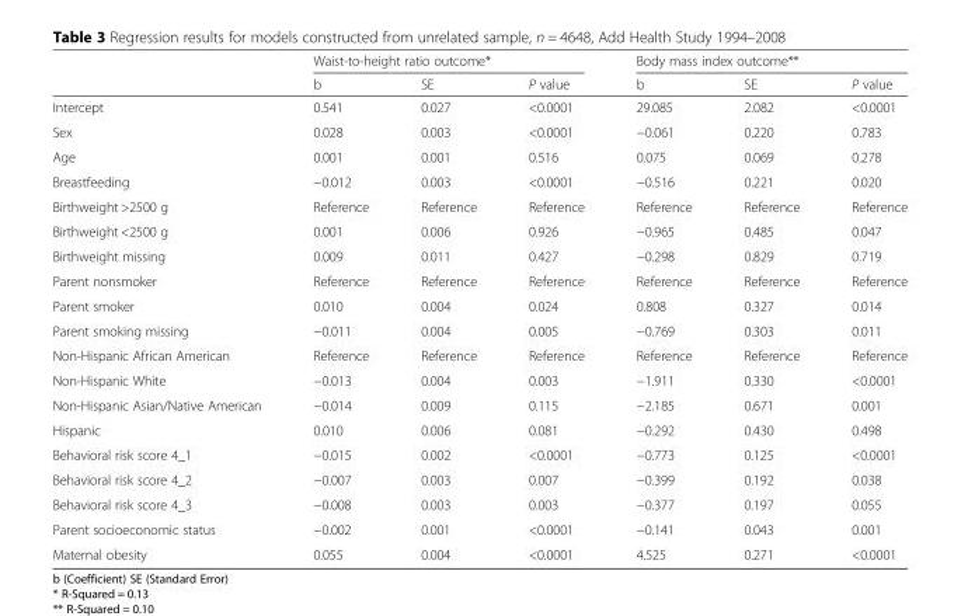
<table><thead><tr><td rowspan="2"></td><td colspan="3">Waist-to-height ratio outcome*</td><td colspan="3">Body mass index outcome**</td></tr><tr><td>b</td><td>SE</td><td>P value</td><td>b</td><td>SE</td><td>P value</td></tr></thead><tbody><tr><td>Intercept</td><td>0.541</td><td>0.027</td><td>&lt;0.0001</td><td>29.085</td><td>2.082</td><td>&lt;0.0001</td></tr><tr><td>Sex</td><td>0.028</td><td>0.003</td><td>&lt;0.0001</td><td>−0.061</td><td>0.220</td><td>0.783</td></tr><tr><td>Age</td><td>0.001</td><td>0.001</td><td>0.516</td><td>0.075</td><td>0.069</td><td>0.278</td></tr><tr><td>Breastfeeding</td><td>−0.012</td><td>0.003</td><td>&lt;0.0001</td><td>−0.516</td><td>0.221</td><td>0.020</td></tr><tr><td>Birthweight &gt;2500 g</td><td>Reference</td><td>Reference</td><td>Reference</td><td>Reference</td><td>Reference</td><td>Reference</td></tr><tr><td>Birthweight &lt;2500 g</td><td>0.001</td><td>0.006</td><td>0.926</td><td>−0.965</td><td>0.485</td><td>0.047</td></tr><tr><td>Birthweight missing</td><td>0.009</td><td>0.011</td><td>0.427</td><td>−0.298</td><td>0.829</td><td>0.719</td></tr><tr><td>Parent nonsmoker</td><td>Reference</td><td>Reference</td><td>Reference</td><td>Reference</td><td>Reference</td><td>Reference</td></tr><tr><td>Parent smoker</td><td>0.010</td><td>0.004</td><td>0.024</td><td>0.808</td><td>0.327</td><td>0.014</td></tr><tr><td>Parent smoking missing</td><td>−0.011</td><td>0.004</td><td>0.005</td><td>−0.769</td><td>0.303</td><td>0.011</td></tr><tr><td>Non-Hispanic African American</td><td>Reference</td><td>Reference</td><td>Reference</td><td>Reference</td><td>Reference</td><td>Reference</td></tr><tr><td>Non-Hispanic White</td><td>−0.013</td><td>0.004</td><td>0.003</td><td>−1.911</td><td>0.330</td><td>&lt;0.0001</td></tr><tr><td>Non-Hispanic Asian/Native American</td><td>−0.014</td><td>0.009</td><td>0.115</td><td>−2.185</td><td>0.671</td><td>0.001</td></tr><tr><td>Hispanic</td><td>0.010</td><td>0.006</td><td>0.081</td><td>−0.292</td><td>0.430</td><td>0.498</td></tr><tr><td>Behavioral risk score 4_1</td><td>−0.015</td><td>0.002</td><td>&lt;0.0001</td><td>−0.773</td><td>0.125</td><td>&lt;0.0001</td></tr><tr><td>Behavioral risk score 4_2</td><td>−0.007</td><td>0.003</td><td>0.007</td><td>−0.399</td><td>0.192</td><td>0.038</td></tr><tr><td>Behavioral risk score 4_3</td><td>−0.008</td><td>0.003</td><td>0.003</td><td>−0.377</td><td>0.197</td><td>0.055</td></tr><tr><td>Parent socioeconomic status</td><td>−0.002</td><td>0.001</td><td>&lt;0.0001</td><td>−0.141</td><td>0.043</td><td>0.001</td></tr><tr><td>Maternal obesity</td><td>0.055</td><td>0.004</td><td>&lt;0.0001</td><td>4.525</td><td>0.271</td><td>&lt;0.0001</td></tr></tbody></table>